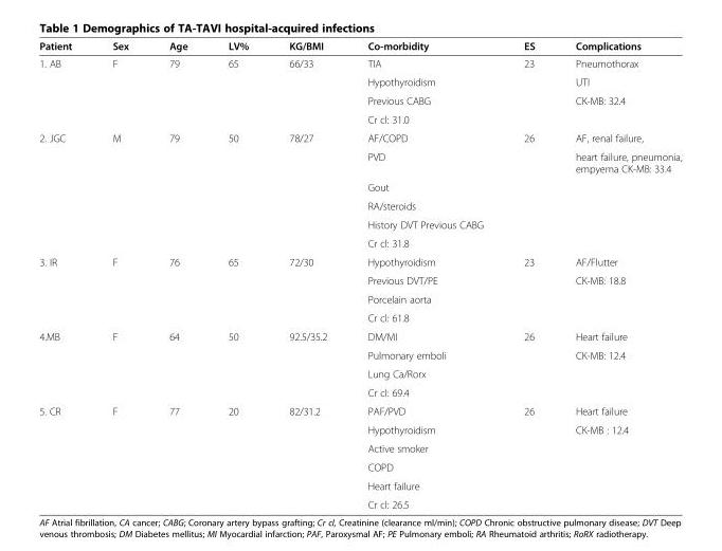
<table><thead><tr><td>Patient</td><td>Sex</td><td>Age</td><td>LV%</td><td>KG/BMI</td><td>Co-morbidity</td><td>ES</td><td>Complications</td></tr></thead><tbody><tr><td rowspan="4">1. AB</td><td>F</td><td>79</td><td>65</td><td>66/33</td><td>TIA</td><td>23</td><td>Pneumothorax</td></tr><tr><td></td><td></td><td></td><td></td><td>Hypothyroidism</td><td></td><td>UTI</td></tr><tr><td></td><td></td><td></td><td></td><td>Previous CABG</td><td></td><td>CK-MB: 32.4</td></tr><tr><td></td><td></td><td></td><td></td><td>Cr cl: 31.0</td><td></td><td></td></tr><tr><td rowspan="6">2. JGC</td><td>M</td><td>79</td><td>50</td><td>78/27</td><td>AF/COPD</td><td>26</td><td>AF, renal failure,</td></tr><tr><td></td><td></td><td></td><td></td><td>PVD</td><td></td><td>heart failure, pneumonia, empyema CK-MB: 33.4</td></tr><tr><td></td><td></td><td></td><td></td><td>Gout</td><td></td><td></td></tr><tr><td></td><td></td><td></td><td></td><td>RA/steroids</td><td></td><td></td></tr><tr><td></td><td></td><td></td><td></td><td>History DVT Previous CABG</td><td></td><td></td></tr><tr><td></td><td></td><td></td><td></td><td>Cr cl: 31.8</td><td></td><td></td></tr><tr><td rowspan="4">3. IR</td><td>F</td><td>76</td><td>65</td><td>72/30</td><td>Hypothyroidism</td><td>23</td><td>AF/Flutter</td></tr><tr><td></td><td></td><td></td><td></td><td>Previous DVT/PE</td><td></td><td>CK-MB: 18.8</td></tr><tr><td></td><td></td><td></td><td></td><td>Porcelain aorta</td><td></td><td></td></tr><tr><td></td><td></td><td></td><td></td><td>Cr cl: 61.8</td><td></td><td></td></tr><tr><td rowspan="4">4.MB</td><td>F</td><td>64</td><td>50</td><td>92.5/35.2</td><td>DM/MI</td><td>26</td><td>Heart failure</td></tr><tr><td></td><td></td><td></td><td></td><td>Pulmonary emboli</td><td></td><td>CK-MB: 12.4</td></tr><tr><td></td><td></td><td></td><td></td><td>Lung Ca/Rorx</td><td></td><td></td></tr><tr><td></td><td></td><td></td><td></td><td>Cr cl: 69.4</td><td></td><td></td></tr><tr><td rowspan="6">5. CR</td><td>F</td><td>77</td><td>20</td><td>82/31.2</td><td>PAF/PVD</td><td>26</td><td>Heart failure</td></tr><tr><td></td><td></td><td></td><td></td><td>Hypothyroidism</td><td></td><td>CK-MB : 12.4</td></tr><tr><td></td><td></td><td></td><td></td><td>Active smoker</td><td></td><td></td></tr><tr><td></td><td></td><td></td><td></td><td>COPD</td><td></td><td></td></tr><tr><td></td><td></td><td></td><td></td><td>Heart failure</td><td></td><td></td></tr><tr><td></td><td></td><td></td><td></td><td>Cr cl: 26.5</td><td></td><td></td></tr></tbody></table>